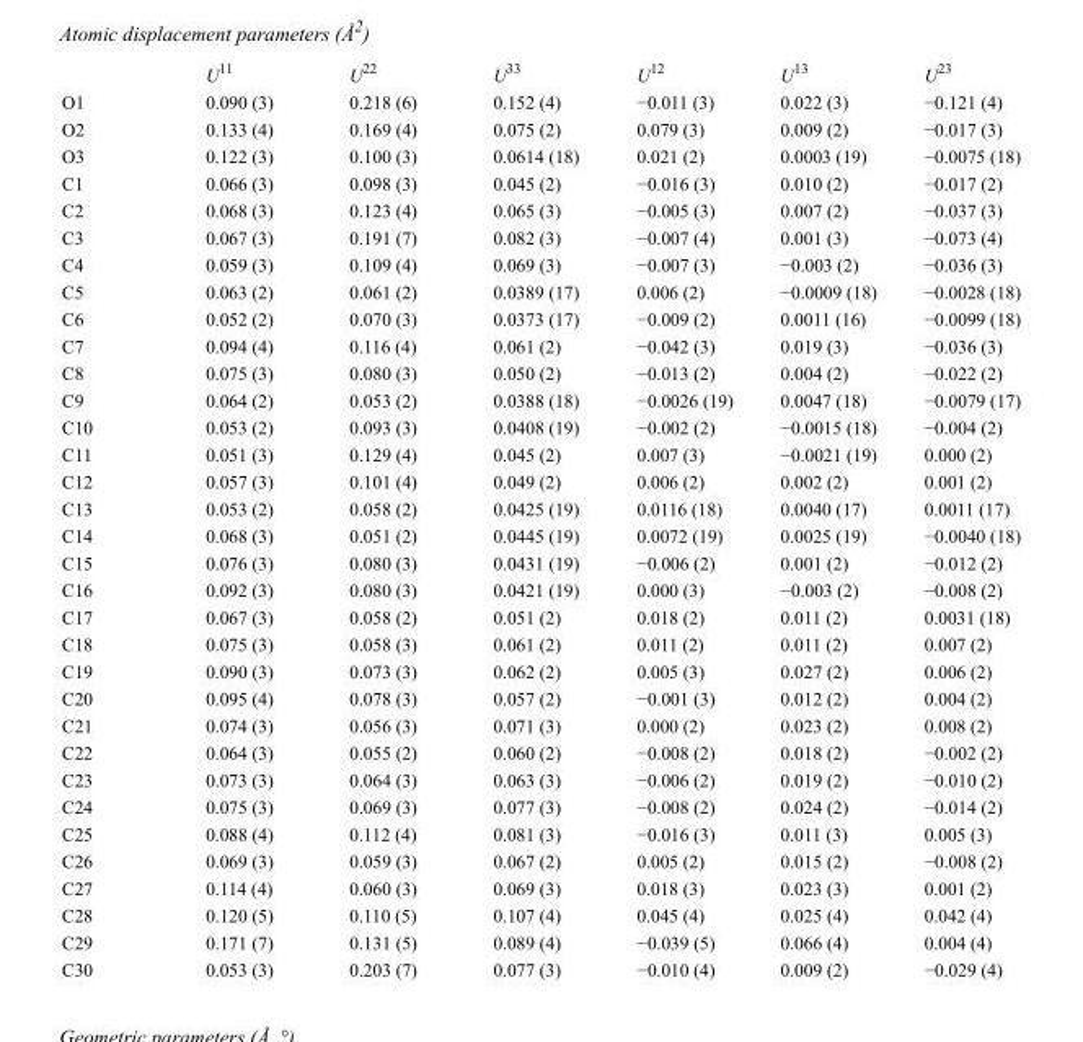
<table><thead><tr><td></td><td>U<sup>11</sup></td><td>U<sup>22</sup></td><td>U<sup>33</sup></td><td>U<sup>12</sup></td><td>U<sup>13</sup></td><td>U<sup>23</sup></td></tr></thead><tbody><tr><td>O1</td><td>0.090 (3)</td><td>0.218 (6)</td><td>0.152 (4)</td><td>−0.011 (3)</td><td>0.022 (3)</td><td>−0.121 (4)</td></tr><tr><td>O2</td><td>0.133 (4)</td><td>0.169 (4)</td><td>0.075 (2)</td><td>0.079 (3)</td><td>0.009 (2)</td><td>−0.017 (3)</td></tr><tr><td>O3</td><td>0.122 (3)</td><td>0.100 (3)</td><td>0.0614 (18)</td><td>0.021 (2)</td><td>0.0003 (19)</td><td>−0.0075 (18)</td></tr><tr><td>C1</td><td>0.066 (3)</td><td>0.098 (3)</td><td>0.045 (2)</td><td>−0.016 (3)</td><td>0.010 (2)</td><td>−0.017 (2)</td></tr><tr><td>C2</td><td>0.068 (3)</td><td>0.123 (4)</td><td>0.065 (3)</td><td>−0.005 (3)</td><td>0.007 (2)</td><td>−0.037 (3)</td></tr><tr><td>C3</td><td>0.067 (3)</td><td>0.191 (7)</td><td>0.082 (3)</td><td>−0.007 (4)</td><td>0.001 (3)</td><td>−0.073 (4)</td></tr><tr><td>C4</td><td>0.059 (3)</td><td>0.109 (4)</td><td>0.069 (3)</td><td>−0.007 (3)</td><td>−0.003 (2)</td><td>−0.036 (3)</td></tr><tr><td>C5</td><td>0.063 (2)</td><td>0.061 (2)</td><td>0.0389 (17)</td><td>0.006 (2)</td><td>−0.0009 (18)</td><td>−0.0028 (18)</td></tr><tr><td>C6</td><td>0.052 (2)</td><td>0.070 (3)</td><td>0.0373 (17)</td><td>−0.009 (2)</td><td>0.0011 (16)</td><td>−0.0099 (18)</td></tr><tr><td>C7</td><td>0.094 (4)</td><td>0.116 (4)</td><td>0.061 (2)</td><td>−0.042 (3)</td><td>0.019 (3)</td><td>−0.036 (3)</td></tr><tr><td>C8</td><td>0.075 (3)</td><td>0.080 (3)</td><td>0.050 (2)</td><td>−0.013 (2)</td><td>0.004 (2)</td><td>−0.022 (2)</td></tr><tr><td>C9</td><td>0.064 (2)</td><td>0.053 (2)</td><td>0.0388 (18)</td><td>−0.0026 (19)</td><td>0.0047 (18)</td><td>−0.0079 (17)</td></tr><tr><td>C10</td><td>0.053 (2)</td><td>0.093 (3)</td><td>0.0408 (19)</td><td>−0.002 (2)</td><td>−0.0015 (18)</td><td>−0.004 (2)</td></tr><tr><td>C11</td><td>0.051 (3)</td><td>0.129 (4)</td><td>0.045 (2)</td><td>0.007 (3)</td><td>−0.0021 (19)</td><td>0.000 (2)</td></tr><tr><td>C12</td><td>0.057 (3)</td><td>0.101 (4)</td><td>0.049 (2)</td><td>0.006 (2)</td><td>0.002 (2)</td><td>0.001 (2)</td></tr><tr><td>C13</td><td>0.053 (2)</td><td>0.058 (2)</td><td>0.0425 (19)</td><td>0.0116 (18)</td><td>0.0040 (17)</td><td>0.0011 (17)</td></tr><tr><td>C14</td><td>0.068 (3)</td><td>0.051 (2)</td><td>0.0445 (19)</td><td>0.0072 (19)</td><td>0.0025 (19)</td><td>−0.0040 (18)</td></tr><tr><td>C15</td><td>0.076 (3)</td><td>0.080 (3)</td><td>0.0431 (19)</td><td>−0.006 (2)</td><td>0.001 (2)</td><td>−0.012 (2)</td></tr><tr><td>C16</td><td>0.092 (3)</td><td>0.080 (3)</td><td>0.0421 (19)</td><td>0.000 (3)</td><td>−0.003 (2)</td><td>−0.008 (2)</td></tr><tr><td>C17</td><td>0.067 (3)</td><td>0.058 (2)</td><td>0.051 (2)</td><td>0.018 (2)</td><td>0.011 (2)</td><td>0.0031 (18)</td></tr><tr><td>C18</td><td>0.075 (3)</td><td>0.058 (3)</td><td>0.061 (2)</td><td>0.011 (2)</td><td>0.011 (2)</td><td>0.007 (2)</td></tr><tr><td>C19</td><td>0.090 (3)</td><td>0.073 (3)</td><td>0.062 (2)</td><td>0.005 (3)</td><td>0.027 (2)</td><td>0.006 (2)</td></tr><tr><td>C20</td><td>0.095 (4)</td><td>0.078 (3)</td><td>0.057 (2)</td><td>−0.001 (3)</td><td>0.012 (2)</td><td>0.004 (2)</td></tr><tr><td>C21</td><td>0.074 (3)</td><td>0.056 (3)</td><td>0.071 (3)</td><td>0.000 (2)</td><td>0.023 (2)</td><td>0.008 (2)</td></tr><tr><td>C22</td><td>0.064 (3)</td><td>0.055 (2)</td><td>0.060 (2)</td><td>−0.008 (2)</td><td>0.018 (2)</td><td>−0.002 (2)</td></tr><tr><td>C23</td><td>0.073 (3)</td><td>0.064 (3)</td><td>0.063 (3)</td><td>−0.006 (2)</td><td>0.019 (2)</td><td>−0.010 (2)</td></tr><tr><td>C24</td><td>0.075 (3)</td><td>0.069 (3)</td><td>0.077 (3)</td><td>−0.008 (2)</td><td>0.024 (2)</td><td>−0.014 (2)</td></tr><tr><td>C25</td><td>0.088 (4)</td><td>0.112 (4)</td><td>0.081 (3)</td><td>−0.016 (3)</td><td>0.011 (3)</td><td>0.005 (3)</td></tr><tr><td>C26</td><td>0.069 (3)</td><td>0.059 (3)</td><td>0.067 (2)</td><td>0.005 (2)</td><td>0.015 (2)</td><td>−0.008 (2)</td></tr><tr><td>C27</td><td>0.114 (4)</td><td>0.060 (3)</td><td>0.069 (3)</td><td>0.018 (3)</td><td>0.023 (3)</td><td>0.001 (2)</td></tr><tr><td>C28</td><td>0.120 (5)</td><td>0.110 (5)</td><td>0.107 (4)</td><td>0.045 (4)</td><td>0.025 (4)</td><td>0.042 (4)</td></tr><tr><td>C29</td><td>0.171 (7)</td><td>0.131 (5)</td><td>0.089 (4)</td><td>−0.039 (5)</td><td>0.066 (4)</td><td>0.004 (4)</td></tr><tr><td>C30</td><td>0.053 (3)</td><td>0.203 (7)</td><td>0.077 (3)</td><td>−0.010 (4)</td><td>0.009 (2)</td><td>−0.029 (4)</td></tr></tbody></table>